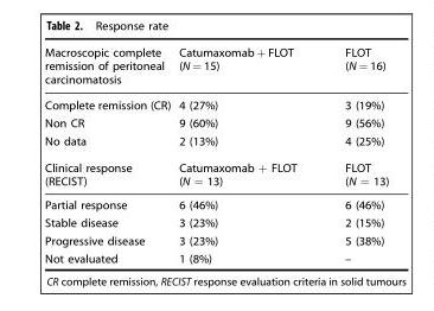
<table><thead><tr><td>Macroscopic complete remission of peritoneal carcinomatosis</td><td>Catumaxomab + FLOT (N = 15)</td><td>FLOT (N = 16)</td></tr></thead><tbody><tr><td>Complete remission (CR)</td><td>4 (27%)</td><td>3 (19%)</td></tr><tr><td>Non CR</td><td>9 (60%)</td><td>9 (56%)</td></tr><tr><td>No data</td><td>2 (13%)</td><td>4 (25%)</td></tr><tr><td>Clinical response (RECIST)</td><td>Catumaxomab + FLOT (N = 13)</td><td>FLOT (N = 13)</td></tr><tr><td>Partial response</td><td>6 (46%)</td><td>6 (46%)</td></tr><tr><td>Stable disease</td><td>3 (23%)</td><td>2 (15%)</td></tr><tr><td>Progressive disease</td><td>3 (23%)</td><td>5 (38%)</td></tr><tr><td>Not evaluated</td><td>1 (8%)</td><td>–</td></tr></tbody></table>